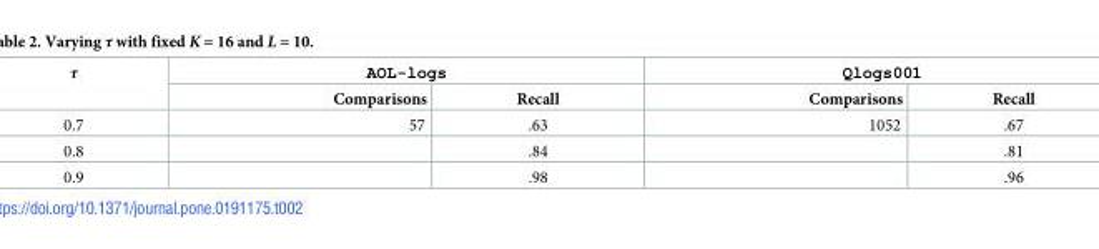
<table><thead><tr><td rowspan="2">τ</td><td colspan="2">AOL-logs</td><td colspan="2">Qlogs001</td></tr><tr><td>Comparisons</td><td>Recall</td><td>Comparisons</td><td>Recall</td></tr></thead><tbody><tr><td>0.7</td><td>57</td><td>.63</td><td>1052</td><td>.67</td></tr><tr><td>0.8</td><td></td><td>.84</td><td></td><td>.81</td></tr><tr><td>0.9</td><td></td><td>.98</td><td></td><td>.96</td></tr></tbody></table>